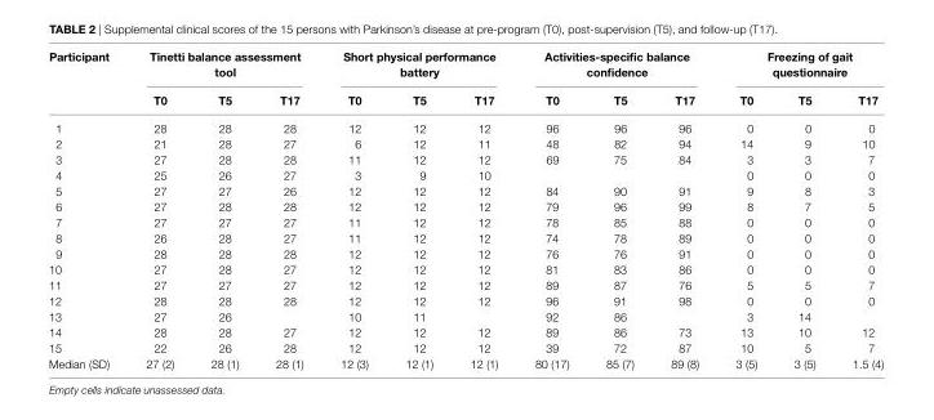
<table><thead><tr><td rowspan="2">Participant</td><td colspan="3">Tinetti balance assessment tool</td><td colspan="3">short physical performance battery</td><td colspan="3">activities-specific balance confidence</td><td colspan="3">Freezing of gait questionnaire</td></tr><tr><td>T0</td><td>T5</td><td>T17</td><td>T0</td><td>T5</td><td>T17</td><td>T0</td><td>T5</td><td>T17</td><td>T0</td><td>T5</td><td>T17</td></tr></thead><tbody><tr><td>1</td><td>28</td><td>28</td><td>28</td><td>12</td><td>12</td><td>12</td><td>96</td><td>96</td><td>96</td><td>0</td><td>0</td><td>0</td></tr><tr><td>2</td><td>21</td><td>28</td><td>27</td><td>6</td><td>12</td><td>11</td><td>48</td><td>82</td><td>94</td><td>14</td><td>9</td><td>10</td></tr><tr><td>3</td><td>27</td><td>28</td><td>28</td><td>11</td><td>12</td><td>12</td><td>69</td><td>75</td><td>84</td><td>3</td><td>3</td><td>7</td></tr><tr><td>4</td><td>25</td><td>26</td><td>27</td><td>3</td><td>9</td><td>10</td><td></td><td></td><td></td><td>0</td><td>0</td><td>0</td></tr><tr><td>5</td><td>27</td><td>27</td><td>26</td><td>12</td><td>12</td><td>12</td><td>84</td><td>90</td><td>91</td><td>9</td><td>8</td><td>3</td></tr><tr><td>6</td><td>27</td><td>28</td><td>28</td><td>12</td><td>12</td><td>12</td><td>79</td><td>96</td><td>99</td><td>8</td><td>7</td><td>5</td></tr><tr><td>7</td><td>27</td><td>27</td><td>27</td><td>11</td><td>12</td><td>12</td><td>78</td><td>85</td><td>88</td><td>0</td><td>0</td><td>0</td></tr><tr><td>8</td><td>26</td><td>28</td><td>27</td><td>11</td><td>12</td><td>12</td><td>74</td><td>78</td><td>89</td><td>0</td><td>0</td><td>0</td></tr><tr><td>9</td><td>28</td><td>28</td><td>28</td><td>12</td><td>12</td><td>12</td><td>76</td><td>76</td><td>91</td><td>0</td><td>0</td><td>0</td></tr><tr><td>10</td><td>27</td><td>28</td><td>27</td><td>12</td><td>12</td><td>12</td><td>81</td><td>83</td><td>86</td><td>0</td><td>0</td><td>0</td></tr><tr><td>11</td><td>27</td><td>27</td><td>27</td><td>12</td><td>12</td><td>12</td><td>89</td><td>87</td><td>76</td><td>5</td><td>5</td><td>7</td></tr><tr><td>12</td><td>28</td><td>28</td><td>28</td><td>12</td><td>12</td><td>12</td><td>96</td><td>91</td><td>98</td><td>0</td><td>0</td><td>0</td></tr><tr><td>13</td><td>27</td><td>26</td><td></td><td>10</td><td>11</td><td></td><td>92</td><td>86</td><td></td><td>3</td><td>14</td><td></td></tr><tr><td>14</td><td>28</td><td>28</td><td>27</td><td>12</td><td>12</td><td>12</td><td>89</td><td>86</td><td>73</td><td>13</td><td>10</td><td>12</td></tr><tr><td>15</td><td>22</td><td>26</td><td>28</td><td>12</td><td>12</td><td>12</td><td>39</td><td>72</td><td>87</td><td>10</td><td>5</td><td>7</td></tr><tr><td>Median (SD)</td><td>27 (2)</td><td>28 (1)</td><td>28 (1)</td><td>12 (3)</td><td>12 (1)</td><td>12 (1)</td><td>80 (17)</td><td>85 (7)</td><td>89 (8)</td><td>3 (5)</td><td>3 (5)</td><td>1.5 (4)</td></tr></tbody></table>